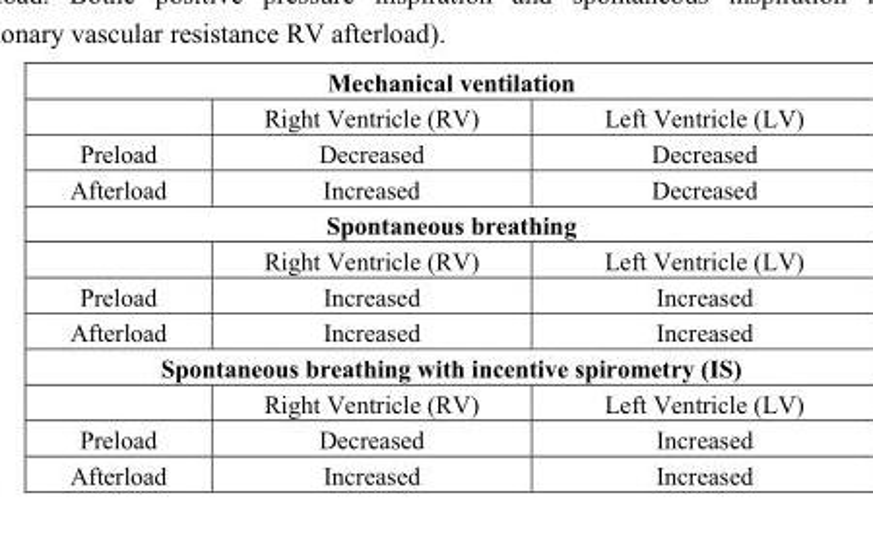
<table><tbody><tr><td colspan="3">Mechanical ventilation</td></tr><tr><td></td><td>Right Ventricle (RV)</td><td>Left Ventricle (LV)</td></tr><tr><td>Preload</td><td>Decreased</td><td>Decreased</td></tr><tr><td>Afterload</td><td>Increased</td><td>Decreased</td></tr><tr><td colspan="3">Spontaneous breathing</td></tr><tr><td></td><td>Right Ventricle (RV)</td><td>Left Ventricle (LV)</td></tr><tr><td>Preload</td><td>Increased</td><td>Increased</td></tr><tr><td>Afterload</td><td>Increased</td><td>Increased</td></tr><tr><td colspan="3">Spontaneous breathing with incentive spirometry (IS)</td></tr><tr><td></td><td>Right Ventricle (RV)</td><td>Left Ventricle (LV)</td></tr><tr><td>Preload</td><td>Decreased</td><td>Increased</td></tr><tr><td>Afterload</td><td>Increased</td><td>Increased</td></tr></tbody></table>